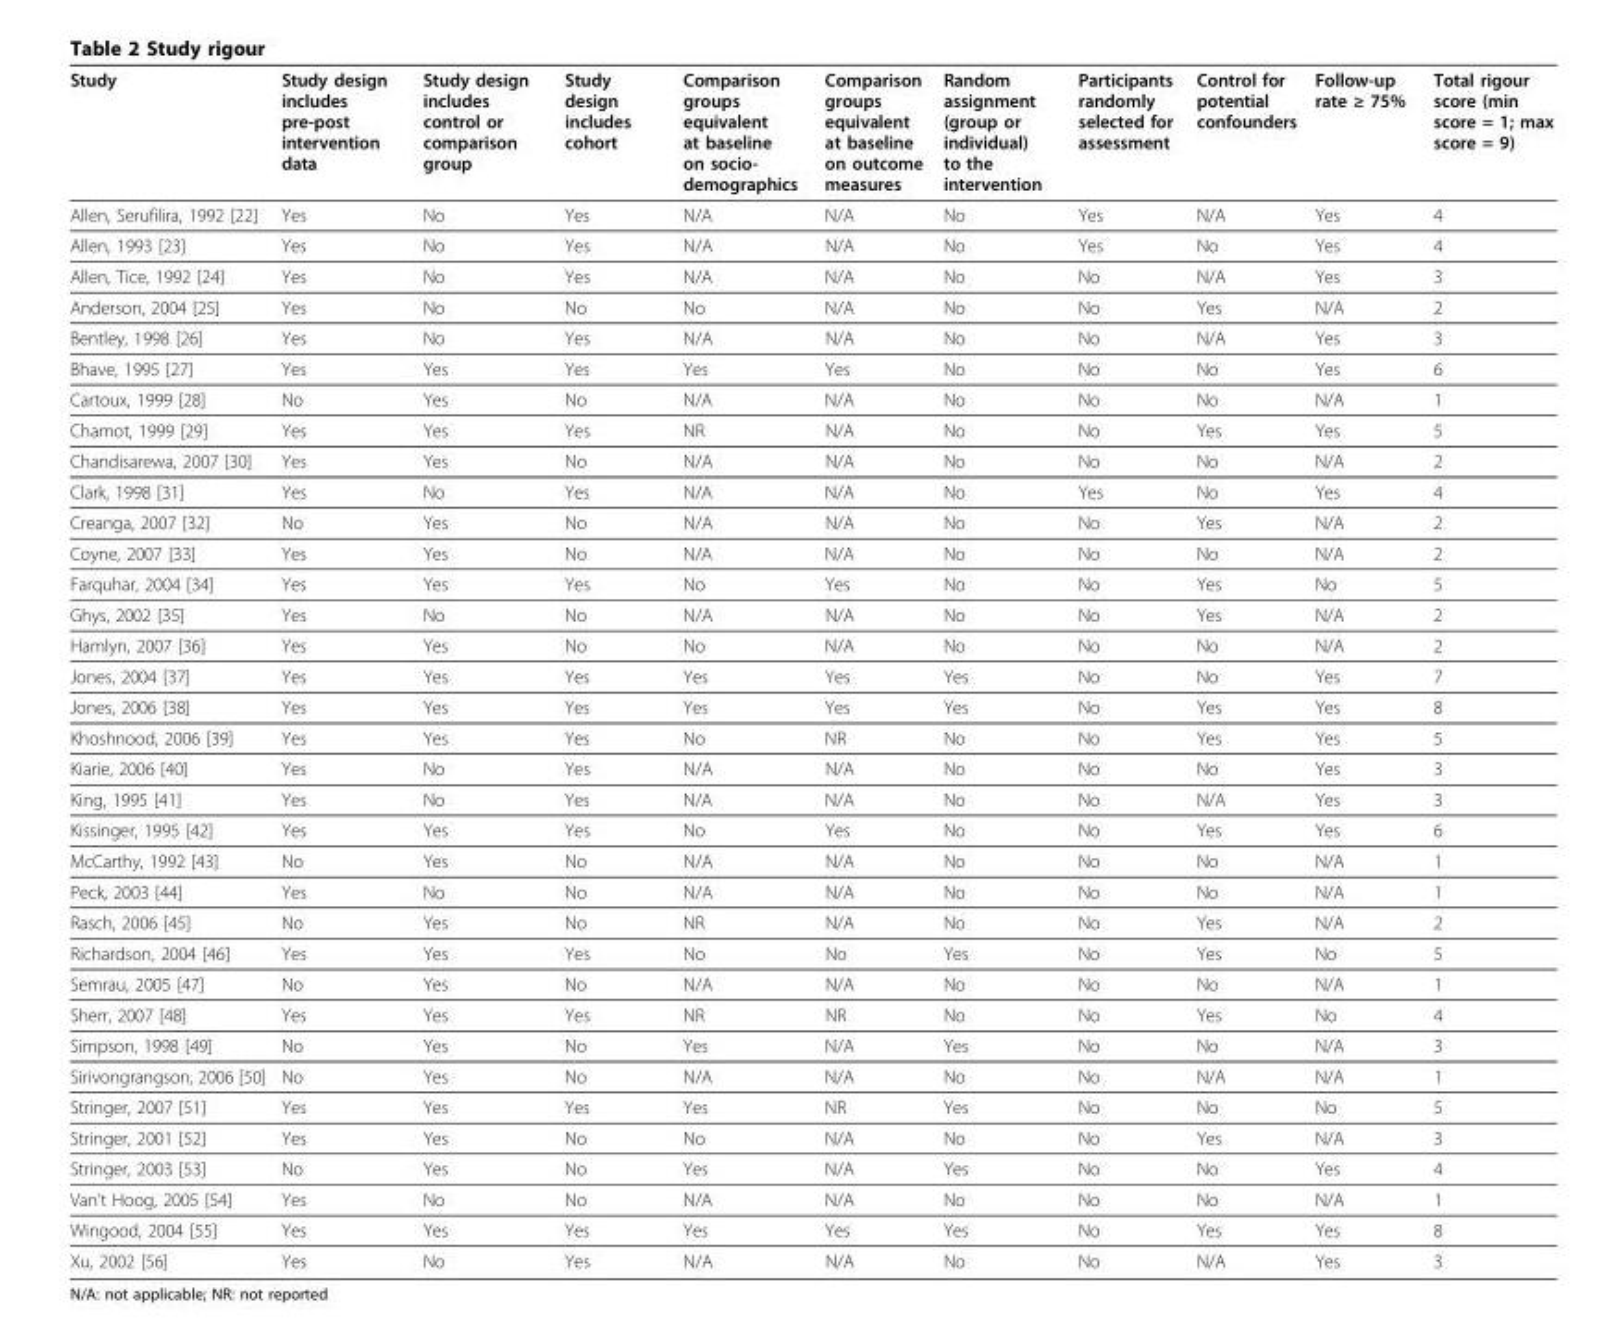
<table><thead><tr><td>Study</td><td>Study design includes pre-post intervention data</td><td>Study design includes control or comparison group</td><td>Study design includes cohort</td><td>Comparison groups equivalent at baseline on socio- demographics</td><td>Comparison groups equivalent at baseline on outcome measures</td><td>Random assignment (group or individual) to the intervention</td><td>Participants randomly selected for assessment</td><td>Control for potential confounders</td><td>Follow-up rate ≥ 75%</td><td>Total rigour score (min score = 1; max score = 9)</td></tr></thead><tbody><tr><td>Allen, Serufilira, 1992 [22]</td><td>Yes</td><td>No</td><td>Yes</td><td>N/A</td><td>N/A</td><td>No</td><td>Yes</td><td>N/A</td><td>Yes</td><td>4</td></tr><tr><td>Allen, 1993 [23]</td><td>Yes</td><td>No</td><td>Yes</td><td>N/A</td><td>N/A</td><td>No</td><td>Yes</td><td>No</td><td>Yes</td><td>4</td></tr><tr><td>Allen, Tice, 1992 [24]</td><td>Yes</td><td>No</td><td>Yes</td><td>N/A</td><td>N/A</td><td>No</td><td>No</td><td>N/A</td><td>Yes</td><td>3</td></tr><tr><td>Anderson, 2004 [25]</td><td>Yes</td><td>No</td><td>No</td><td>No</td><td>N/A</td><td>No</td><td>No</td><td>Yes</td><td>N/A</td><td>2</td></tr><tr><td>Bentley, 1998 [26]</td><td>Yes</td><td>No</td><td>Yes</td><td>N/A</td><td>N/A</td><td>No</td><td>No</td><td>N/A</td><td>Yes</td><td>3</td></tr><tr><td>Bhave, 1995 [27]</td><td>Yes</td><td>Yes</td><td>Yes</td><td>Yes</td><td>Yes</td><td>No</td><td>No</td><td>No</td><td>Yes</td><td>6</td></tr><tr><td>Cartoux, 1999 [28]</td><td>No</td><td>Yes</td><td>No</td><td>N/A</td><td>N/A</td><td>No</td><td>No</td><td>No</td><td>N/A</td><td>1</td></tr><tr><td>Chamot, 1999 [29]</td><td>Yes</td><td>Yes</td><td>Yes</td><td>NR</td><td>N/A</td><td>No</td><td>No</td><td>Yes</td><td>Yes</td><td>5</td></tr><tr><td>Chandisarewa, 2007 [30]</td><td>Yes</td><td>Yes</td><td>No</td><td>N/A</td><td>N/A</td><td>No</td><td>No</td><td>No</td><td>N/A</td><td>2</td></tr><tr><td>Clark, 1998 [31]</td><td>Yes</td><td>No</td><td>Yes</td><td>N/A</td><td>N/A</td><td>No</td><td>Yes</td><td>No</td><td>Yes</td><td>4</td></tr><tr><td>Creanga, 2007 [32]</td><td>No</td><td>Yes</td><td>No</td><td>N/A</td><td>N/A</td><td>No</td><td>No</td><td>Yes</td><td>N/A</td><td>2</td></tr><tr><td>Coyne, 2007 [33]</td><td>Yes</td><td>Yes</td><td>No</td><td>N/A</td><td>N/A</td><td>No</td><td>No</td><td>No</td><td>N/A</td><td>2</td></tr><tr><td>Farquhar, 2004 [34]</td><td>Yes</td><td>Yes</td><td>Yes</td><td>No</td><td>Yes</td><td>No</td><td>No</td><td>Yes</td><td>No</td><td>5</td></tr><tr><td>Ghys, 2002 [35]</td><td>Yes</td><td>No</td><td>No</td><td>N/A</td><td>N/A</td><td>No</td><td>No</td><td>Yes</td><td>N/A</td><td>2</td></tr><tr><td>Hamlyn, 2007 [36]</td><td>Yes</td><td>Yes</td><td>No</td><td>No</td><td>N/A</td><td>No</td><td>No</td><td>No</td><td>N/A</td><td>2</td></tr><tr><td>Jones, 2004 [37]</td><td>Yes</td><td>Yes</td><td>Yes</td><td>Yes</td><td>Yes</td><td>Yes</td><td>No</td><td>No</td><td>Yes</td><td>7</td></tr><tr><td>Jones, 2006 [38]</td><td>Yes</td><td>Yes</td><td>Yes</td><td>Yes</td><td>Yes</td><td>Yes</td><td>No</td><td>Yes</td><td>Yes</td><td>8</td></tr><tr><td>Khoshnood, 2006 [39]</td><td>Yes</td><td>Yes</td><td>Yes</td><td>No</td><td>NR</td><td>No</td><td>No</td><td>Yes</td><td>Yes</td><td>5</td></tr><tr><td>Kiarie, 2006 [40]</td><td>Yes</td><td>No</td><td>Yes</td><td>N/A</td><td>N/A</td><td>No</td><td>No</td><td>No</td><td>Yes</td><td>3</td></tr><tr><td>King, 1995 [41]</td><td>Yes</td><td>No</td><td>Yes</td><td>N/A</td><td>N/A</td><td>No</td><td>No</td><td>N/A</td><td>Yes</td><td>3</td></tr><tr><td>Kissinger, 1995 [42]</td><td>Yes</td><td>Yes</td><td>Yes</td><td>No</td><td>Yes</td><td>No</td><td>No</td><td>Yes</td><td>Yes</td><td>6</td></tr><tr><td>McCarthy, 1992 [43]</td><td>No</td><td>Yes</td><td>No</td><td>N/A</td><td>N/A</td><td>No</td><td>No</td><td>No</td><td>N/A</td><td>1</td></tr><tr><td>Peck, 2003 [44]</td><td>Yes</td><td>No</td><td>No</td><td>N/A</td><td>N/A</td><td>No</td><td>No</td><td>No</td><td>N/A</td><td>1</td></tr><tr><td>Rasch, 2006 [45]</td><td>No</td><td>Yes</td><td>No</td><td>NR</td><td>N/A</td><td>No</td><td>No</td><td>Yes</td><td>N/A</td><td>2</td></tr><tr><td>Richardson, 2004 [46]</td><td>Yes</td><td>Yes</td><td>Yes</td><td>No</td><td>No</td><td>Yes</td><td>No</td><td>Yes</td><td>No</td><td>5</td></tr><tr><td>Semrau, 2005 [47]</td><td>No</td><td>Yes</td><td>No</td><td>N/A</td><td>N/A</td><td>No</td><td>No</td><td>No</td><td>N/A</td><td>1</td></tr><tr><td>Sherr, 2007 [48]</td><td>Yes</td><td>Yes</td><td>Yes</td><td>NR</td><td>NR</td><td>No</td><td>No</td><td>Yes</td><td>No</td><td>4</td></tr><tr><td>Simpson, 1998 [49]</td><td>No</td><td>Yes</td><td>No</td><td>Yes</td><td>N/A</td><td>Yes</td><td>No</td><td>No</td><td>N/A</td><td>3</td></tr><tr><td>Sirivongrangson, 2006 [50]</td><td>No</td><td>Yes</td><td>No</td><td>N/A</td><td>N/A</td><td>No</td><td>No</td><td>N/A</td><td>N/A</td><td>1</td></tr><tr><td>Stringer, 2007 [51]</td><td>Yes</td><td>Yes</td><td>Yes</td><td>Yes</td><td>NR</td><td>Yes</td><td>No</td><td>No</td><td>No</td><td>5</td></tr><tr><td>Stringer, 2001 [52]</td><td>Yes</td><td>Yes</td><td>No</td><td>No</td><td>N/A</td><td>No</td><td>No</td><td>Yes</td><td>N/A</td><td>3</td></tr><tr><td>Stringer, 2003 [53]</td><td>No</td><td>Yes</td><td>No</td><td>Yes</td><td>N/A</td><td>Yes</td><td>No</td><td>No</td><td>Yes</td><td>4</td></tr><tr><td>Van’t Hoog, 2005 [54]</td><td>Yes</td><td>No</td><td>No</td><td>N/A</td><td>N/A</td><td>No</td><td>No</td><td>No</td><td>N/A</td><td>1</td></tr><tr><td>Wingood, 2004 [55]</td><td>Yes</td><td>Yes</td><td>Yes</td><td>Yes</td><td>Yes</td><td>Yes</td><td>No</td><td>Yes</td><td>Yes</td><td>8</td></tr><tr><td>Xu, 2002 [56]</td><td>Yes</td><td>No</td><td>Yes</td><td>N/A</td><td>N/A</td><td>No</td><td>No</td><td>N/A</td><td>Yes</td><td>3</td></tr></tbody></table>